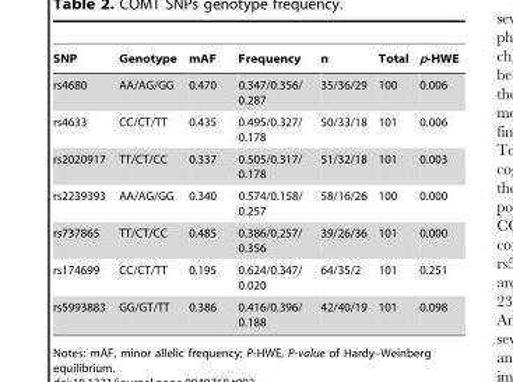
<table><thead><tr><td>SNP</td><td>Genotype</td><td>mAF</td><td>Frequency</td><td>n</td><td>Total</td><td>p-HWE</td></tr></thead><tbody><tr><td>rs4680</td><td>AA/AG/GG</td><td>0.470</td><td>0.347/0.356/ 0.287</td><td>35/36/29</td><td>100</td><td>0.006</td></tr><tr><td>rs4633</td><td>CC/CT/TT</td><td>0.435</td><td>0.495/0.327/ 0.178</td><td>50/33/18</td><td>101</td><td>0.006</td></tr><tr><td>rs2020917</td><td>TT/CT/CC</td><td>0.337</td><td>0.505/0.317/ 0.178</td><td>51/32/18</td><td>101</td><td>0.003</td></tr><tr><td>rs2239393</td><td>AA/AG/GG</td><td>0.340</td><td>0.574/0.158/ 0.257</td><td>58/16/26</td><td>100</td><td>0.000</td></tr><tr><td>rs737865</td><td>TT/CT/CC</td><td>0.485</td><td>0.386/0.257/ 0.356</td><td>39/26/36</td><td>101</td><td>0.000</td></tr><tr><td>rs174699</td><td>CC/CT/TT</td><td>0.195</td><td>0.624/0.347/ 0.020</td><td>64/35/2</td><td>101</td><td>0.251</td></tr><tr><td>rs5993883</td><td>GG/GT/TT</td><td>0.386</td><td>0.416/0.396/ 0.188</td><td>42/40/19</td><td>101</td><td>0.098</td></tr></tbody></table>